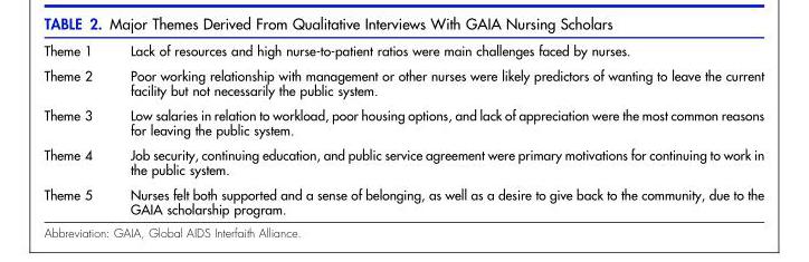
<table><tbody><tr><td>Theme 1</td><td>Lack of resources and high nurse-to-patient ratios were main challenges faced by nurses.</td></tr><tr><td>Theme 2</td><td>Poor working relationship with management or other nurses were likely predictors of wanting to leave the current facility but not necessarily the public system.</td></tr><tr><td>Theme 3</td><td>Low salaries in relation to workload, poor housing options, and lack of appreciation were the most common reasons for leaving the public system.</td></tr><tr><td>Theme 4</td><td>Job security, continuing education, and public service agreement were primary motivations for continuing to work in the public system.</td></tr><tr><td>Theme 5</td><td>Nurses felt both supported and a sense of belonging, as well as a desire to give back to the community, due to the GAIA scholarship program.</td></tr></tbody></table>